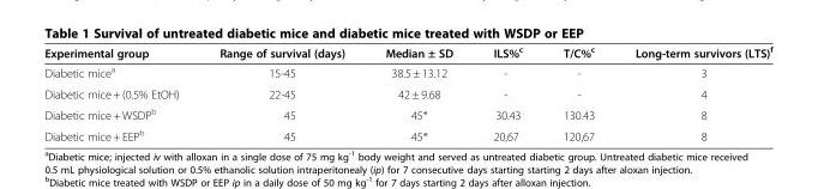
<table><thead><tr><td>Experimental group</td><td>Range of survival (days)</td><td>Median ± SD</td><td>ILS%<sup>c</sup></td><td>T/C%<sup>c</sup></td><td>Long-term survivors (LTS)<sup>f</sup></td></tr></thead><tbody><tr><td>Diabetic mice<sup>a</sup></td><td>15-45</td><td>38.5 ± 13.12</td><td>-</td><td>-</td><td>3</td></tr><tr><td>Diabetic mice + (0.5% EtOH)</td><td>22-45</td><td>42 ± 9.68</td><td>-</td><td>-</td><td>4</td></tr><tr><td>Diabetic mice + WSDP<sup>b</sup></td><td>45</td><td>45*</td><td>30.43</td><td>130.43</td><td>8</td></tr><tr><td>Diabetic mice + EEP<sup>b</sup></td><td>45</td><td>45*</td><td>20,67</td><td>120,67</td><td>8</td></tr></tbody></table>